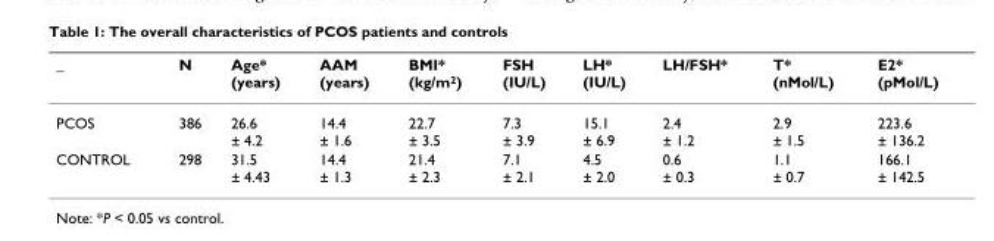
<table><thead><tr><td>_</td><td>N</td><td>Age* (years)</td><td>AAM (years)</td><td>BMI* (kg/m<sup>2</sup>)</td><td>FSH (IU/L)</td><td>LH* (IU/L)</td><td>LH/FSH*</td><td>T* (nMol/L)</td><td>E2* (pMol/L)</td></tr></thead><tbody><tr><td>PCOS</td><td>386</td><td>26.6 ± 4.2</td><td>14.4 ± 1.6</td><td>22.7 ± 3.5</td><td>7.3 ± 3.9</td><td>15.1 ± 6.9</td><td>2.4 ± 1.2</td><td>2.9 ± 1.5</td><td>223.6 ± 136.2</td></tr><tr><td>CONTROL</td><td>298</td><td>31.5 ± 4.43</td><td>14.4 ± 1.3</td><td>21.4 ± 2.3</td><td>7.1 ± 2.1</td><td>4.5 ± 2.0</td><td>0.6 ± 0.3</td><td>1.1 ± 0.7</td><td>166.1 ± 142.5</td></tr></tbody></table>